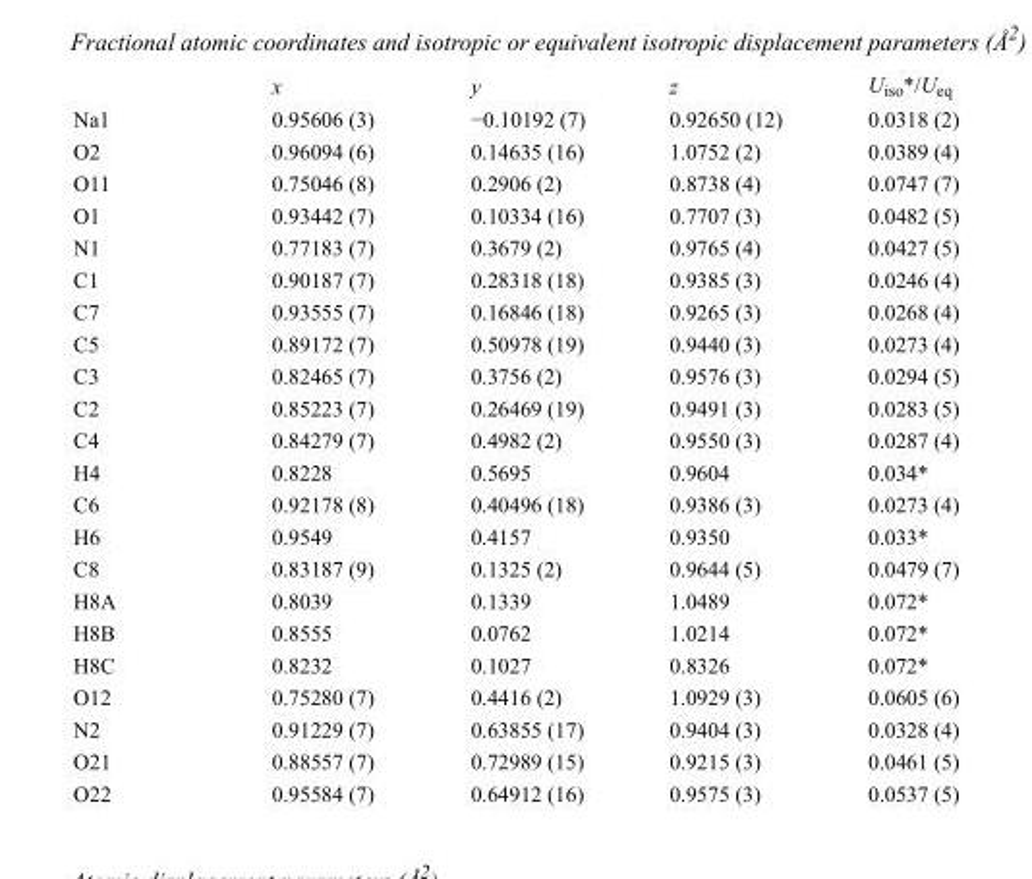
<table><thead><tr><td></td><td>x</td><td>y</td><td>z</td><td>U<sub>iso</sub>*/U<sub>eq</sub></td></tr></thead><tbody><tr><td>Na1</td><td>0.95606 (3)</td><td>−0.10192 (7)</td><td>0.92650 (12)</td><td>0.0318 (2)</td></tr><tr><td>O2</td><td>0.96094 (6)</td><td>0.14635 (16)</td><td>1.0752 (2)</td><td>0.0389 (4)</td></tr><tr><td>O11</td><td>0.75046 (8)</td><td>0.2906 (2)</td><td>0.8738 (4)</td><td>0.0747 (7)</td></tr><tr><td>O1</td><td>0.93442 (7)</td><td>0.10334 (16)</td><td>0.7707 (3)</td><td>0.0482 (5)</td></tr><tr><td>N1</td><td>0.77183 (7)</td><td>0.3679 (2)</td><td>0.9765 (4)</td><td>0.0427 (5)</td></tr><tr><td>C1</td><td>0.90187 (7)</td><td>0.28318 (18)</td><td>0.9385 (3)</td><td>0.0246 (4)</td></tr><tr><td>C7</td><td>0.93555 (7)</td><td>0.16846 (18)</td><td>0.9265 (3)</td><td>0.0268 (4)</td></tr><tr><td>C5</td><td>0.89172 (7)</td><td>0.50978 (19)</td><td>0.9440 (3)</td><td>0.0273 (4)</td></tr><tr><td>C3</td><td>0.82465 (7)</td><td>0.3756 (2)</td><td>0.9576 (3)</td><td>0.0294 (5)</td></tr><tr><td>C2</td><td>0.85223 (7)</td><td>0.26469 (19)</td><td>0.9491 (3)</td><td>0.0283 (5)</td></tr><tr><td>C4</td><td>0.84279 (7)</td><td>0.4982 (2)</td><td>0.9550 (3)</td><td>0.0287 (4)</td></tr><tr><td>H4</td><td>0.8228</td><td>0.5695</td><td>0.9604</td><td>0.034*</td></tr><tr><td>C6</td><td>0.92178 (8)</td><td>0.40496 (18)</td><td>0.9386 (3)</td><td>0.0273 (4)</td></tr><tr><td>H6</td><td>0.9549</td><td>0.4157</td><td>0.9350</td><td>0.033*</td></tr><tr><td>C8</td><td>0.83187 (9)</td><td>0.1325 (2)</td><td>0.9644 (5)</td><td>0.0479 (7)</td></tr><tr><td>H8A</td><td>0.8039</td><td>0.1339</td><td>1.0489</td><td>0.072*</td></tr><tr><td>H8B</td><td>0.8555</td><td>0.0762</td><td>1.0214</td><td>0.072*</td></tr><tr><td>H8C</td><td>0.8232</td><td>0.1027</td><td>0.8326</td><td>0.072*</td></tr><tr><td>O12</td><td>0.75280 (7)</td><td>0.4416 (2)</td><td>1.0929 (3)</td><td>0.0605 (6)</td></tr><tr><td>N2</td><td>0.91229 (7)</td><td>0.63855 (17)</td><td>0.9404 (3)</td><td>0.0328 (4)</td></tr><tr><td>O21</td><td>0.88557 (7)</td><td>0.72989 (15)</td><td>0.9215 (3)</td><td>0.0461 (5)</td></tr><tr><td>O22</td><td>0.95584 (7)</td><td>0.64912 (16)</td><td>0.9575 (3)</td><td>0.0537 (5)</td></tr></tbody></table>